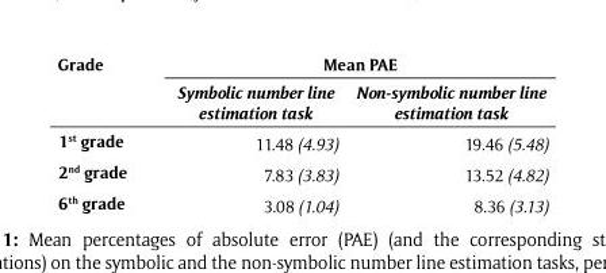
<table><thead><tr><td rowspan="2">Grade</td><td colspan="2">Mean PAE</td></tr><tr><td>Symbolic number line estimation task</td><td>Non-symbolic number line estimation task</td></tr></thead><tbody><tr><td>1<sup>st</sup> grade</td><td>11.48 (4.93)</td><td>19.46 (5.48)</td></tr><tr><td>2<sup>nd</sup> grade</td><td>7.83 (3.83)</td><td>13.52 (4.82)</td></tr><tr><td>6<sup>th</sup> grade</td><td>3.08 (1.04)</td><td>8.36 (3.13)</td></tr></tbody></table>